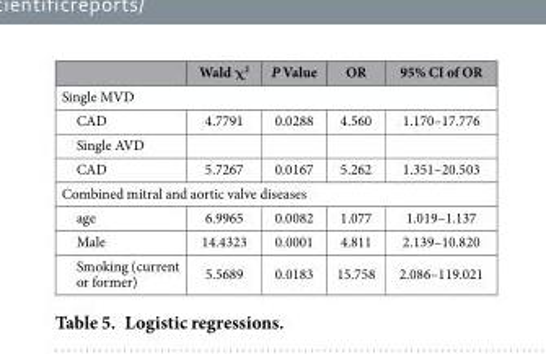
<table><thead><tr><td></td><td>Wald χ<sup>2</sup></td><td>P Value</td><td>OR</td><td>95% CI of OR</td></tr></thead><tbody><tr><td colspan="5">Single MVD</td></tr><tr><td>CAD</td><td>4.7791</td><td>0.0288</td><td>4.560</td><td>1.170–17.776</td></tr><tr><td colspan="5">Single AVD</td></tr><tr><td>CAD</td><td>5.7267</td><td>0.0167</td><td>5.262</td><td>1.351–20.503</td></tr><tr><td colspan="5">Combined mitral and aortic valve diseases</td></tr><tr><td>age</td><td>6.9965</td><td>0.0082</td><td>1.077</td><td>1.019–1.137</td></tr><tr><td>Male</td><td>14.4323</td><td>0.0001</td><td>4.811</td><td>2.139–10.820</td></tr><tr><td>Smoking (current or former)</td><td>5.5689</td><td>0.0183</td><td>15.758</td><td>2.086–119.021</td></tr></tbody></table>